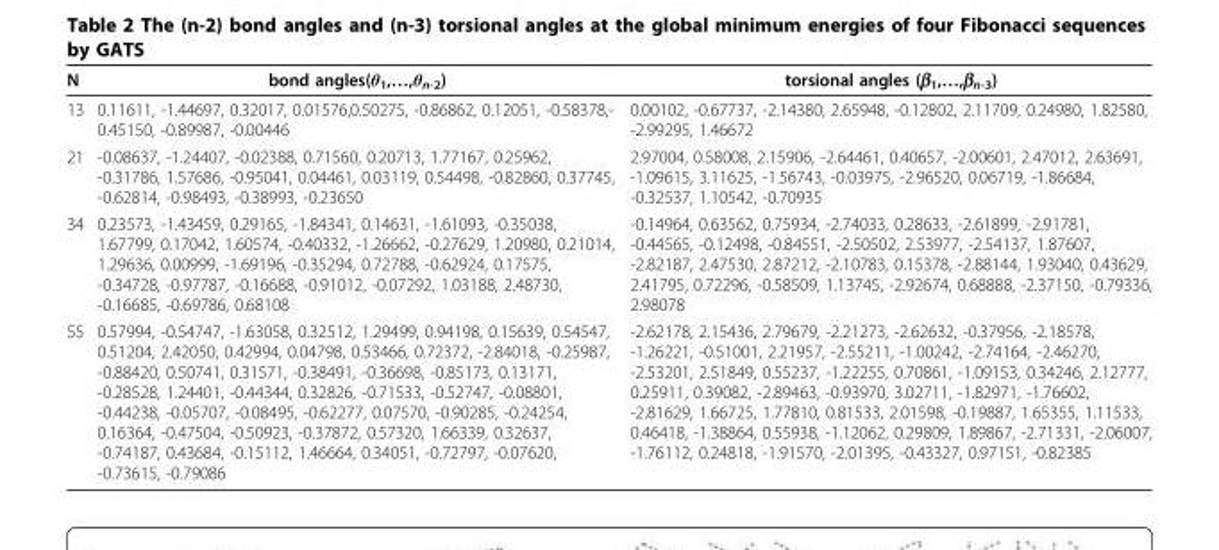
<table><thead><tr><td>N</td><td>bond angles(θ<sub>1</sub>,…,θ<sub>n-2</sub>)</td><td>torsional angles (β<sub>1</sub>,…,β<sub>n-3</sub>)</td></tr></thead><tbody><tr><td>13</td><td>0.11611, -1.44697, 0.32017, 0.01576,0.50275, -0.86862, 0.12051, -0.58378,- 0.45150, -0.89987, -0.00446</td><td>0.00102, -0.67737, -2.14380, 2.65948, -0.12802, 2.11709, 0.24980, 1.82580, -2.99295, 1.46672</td></tr><tr><td>21</td><td>-0.08637, -1.24407, -0.02388, 0.71560, 0.20713, 1.77167, 0.25962, -0.31786, 1.57686, -0.95041, 0.04461, 0.03119, 0.54498, -0.82860, 0.37745, -0.62814, -0.98493, -0.38993, -0.23650</td><td>2.97004, 0.58008, 2.15906, -2.64461, 0.40657, -2.00601, 2.47012, 2.63691, -1.09615, 3.11625, -1.56743, -0.03975, -2.96520, 0.06719, -1.86684, -0.32537, 1.10542, -0.70935</td></tr><tr><td>34</td><td>0.23573, -1.43459, 0.29165, -1.84341, 0.14631, -1.61093, -0.35038, 1.67799, 0.17042, 1.60574, -0.40332, -1.26662, -0.27629, 1.20980, 0.21014, 1.29636, 0.00999, -1.69196, -0.35294, 0.72788, -0.62924, 0.17575, -0.34728, -0.97787, -0.16688, -0.91012, -0.07292, 1.03188, 2.48730, -0.16685, -0.69786, 0.68108</td><td>-0.14964, 0.63562, 0.75934, -2.74033, 0.28633, -2.61899, -2.91781, -0.44565, -0.12498, -0.84551, -2.50502, 2.53977, -2.54137, 1.87607, -2.82187, 2.47530, 2.87212, -2.10783, 0.15378, -2.88144, 1.93040, 0.43629, 2.41795, 0.72296, -0.58509, 1.13745, -2.92674, 0.68888, -2.37150, -0.79336, 2.98078</td></tr><tr><td>55</td><td>0.57994, -0.54747, -1.63058, 0.32512, 1.29499, 0.94198, 0.15639, 0.54547, 0.51204, 2.42050, 0.42994, 0.04798, 0.53466, 0.72372, -2.84018, -0.25987, -0.88420, 0.50741, 0.31571, -0.38491, -0.36698, -0.85173, 0.13171, -0.28528, 1.24401, -0.44344, 0.32826, -0.71533, -0.52747, -0.08801, -0.44238, -0.05707, -0.08495, -0.62277, 0.07570, -0.90285, -0.24254, 0.16364, -0.47504, -0.50923, -0.37872, 0.57320, 1.66339, 0.32637, -0.74187, 0.43684, -0.15112, 1.46664, 0.34051, -0.72797, -0.07620, -0.73615, -0.79086</td><td>-2.62178, 2.15436, 2.79679, -2.21273, -2.62632, -0.37956, -2.18578, -1.26221, -0.51001, 2.21957, -2.55211, -1.00242, -2.74164, -2.46270, -2.53201, 2.51849, 0.55237, -1.22255, 0.70861, -1.09153, 0.34246, 2.12777, 0.25911, 0.39082, -2.89463, -0.93970, 3.02711, -1.82971, -1.76602, -2.81629, 1.66725, 1.77810, 0.81533, 2.01598, -0.19887, 1.65355, 1.11533, 0.46418, -1.38864, 0.55938, -1.12062, 0.29809, 1.89867, -2.71331, -2.06007, -1.76112, 0.24818, -1.91570, -2.01395, -0.43327, 0.97151, -0.82385</td></tr></tbody></table>